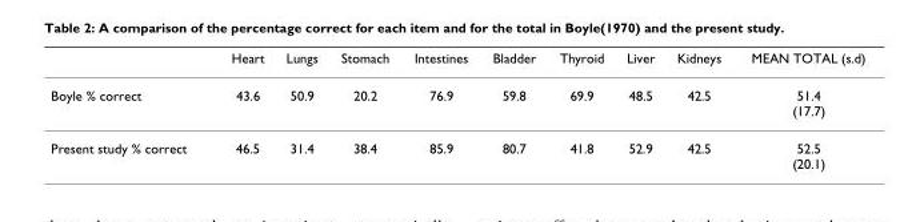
<table><thead><tr><td></td><td>Heart</td><td>Lungs</td><td>Stomach</td><td>Intestines</td><td>Bladder</td><td>Thyroid</td><td>Liver</td><td>Kidneys</td><td>MEAN TOTAL (s.d)</td></tr></thead><tbody><tr><td>Boyle % correct</td><td>43.6</td><td>50.9</td><td>20.2</td><td>76.9</td><td>59.8</td><td>69.9</td><td>48.5</td><td>42.5</td><td>51.4 (17.7)</td></tr><tr><td>Present study % correct</td><td>46.5</td><td>31.4</td><td>38.4</td><td>85.9</td><td>80.7</td><td>41.8</td><td>52.9</td><td>42.5</td><td>52.5 (20.1)</td></tr></tbody></table>